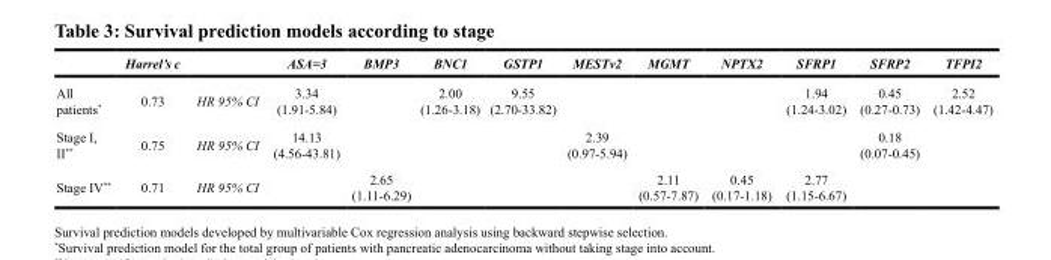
<table><thead><tr><td></td><td>Harrel’s c</td><td></td><td>ASA=3</td><td>BMP3</td><td>BNC1</td><td>GSTP1</td><td>MESTv2</td><td>MGMT</td><td>NPTX2</td><td>SFRP1</td><td>SFRP2</td><td>TFPI2</td></tr></thead><tbody><tr><td>All patients*</td><td>0.73</td><td>HR 95% CI</td><td>3.34 (1.91-5.84)</td><td></td><td>2.00 (1.26-3.18)</td><td>9.55 (2.70-33.82)</td><td></td><td></td><td></td><td>1.94 (1.24-3.02)</td><td>0.45 (0.27-0.73)</td><td>2.52 (1.42-4.47)</td></tr><tr><td>Stage I, II**</td><td>0.75</td><td>HR 95% CI</td><td>14.13 (4.56-43.81)</td><td></td><td></td><td></td><td>2.39 (0.97-5.94)</td><td></td><td></td><td></td><td>0.18 (0.07-0.45)</td><td></td></tr><tr><td>Stage IV**</td><td>0.71</td><td>HR 95% CI</td><td></td><td>2.65 (1.11-6.29)</td><td></td><td></td><td></td><td>2.11 (0.57-7.87)</td><td>0.45 (0.17-1.18)</td><td>2.77 (1.15-6.67)</td><td></td><td></td></tr></tbody></table>